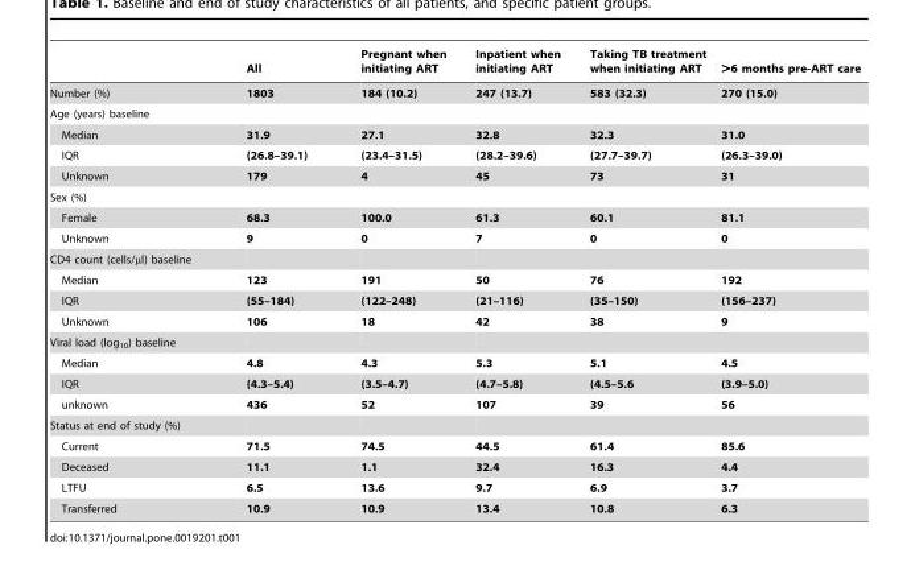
<table><thead><tr><td></td><td>All</td><td>Pregnant when initiating ART</td><td>Inpatient when initiating ART</td><td>Taking TB treatment when initiating ART</td><td>&gt;6 months pre-ART care</td></tr></thead><tbody><tr><td>Number (%)</td><td>1803</td><td>184 (10.2)</td><td>247 (13.7)</td><td>583 (32.3)</td><td>270 (15.0)</td></tr><tr><td colspan="6">Age (years) baseline</td></tr><tr><td>Median</td><td>31.9</td><td>27.1</td><td>32.8</td><td>32.3</td><td>31.0</td></tr><tr><td>IQR</td><td>(26.8–39.1)</td><td>(23.4–31.5)</td><td>(28.2–39.6)</td><td>(27.7–39.7)</td><td>(26.3–39.0)</td></tr><tr><td>Unknown</td><td>179</td><td>4</td><td>45</td><td>73</td><td>31</td></tr><tr><td colspan="6">Sex (%)</td></tr><tr><td>Female</td><td>68.3</td><td>100.0</td><td>61.3</td><td>60.1</td><td>81.1</td></tr><tr><td>Unknown</td><td>9</td><td>0</td><td>7</td><td>0</td><td>0</td></tr><tr><td colspan="6">CD4 count (cells/µl) baseline</td></tr><tr><td>Median</td><td>123</td><td>191</td><td>50</td><td>76</td><td>192</td></tr><tr><td>IQR</td><td>(55–184)</td><td>(122–248)</td><td>(21–116)</td><td>(35–150)</td><td>(156–237)</td></tr><tr><td>Unknown</td><td>106</td><td>18</td><td>42</td><td>38</td><td>9</td></tr><tr><td colspan="6">Viral load (log<sub>10</sub>) baseline</td></tr><tr><td>Median</td><td>4.8</td><td>4.3</td><td>5.3</td><td>5.1</td><td>4.5</td></tr><tr><td>IQR</td><td>(4.3–5.4)</td><td>(3.5–4.7)</td><td>(4.7–5.8)</td><td>(4.5–5.6</td><td>(3.9–5.0)</td></tr><tr><td>unknown</td><td>436</td><td>52</td><td>107</td><td>39</td><td>56</td></tr><tr><td colspan="6">Status at end of study (%)</td></tr><tr><td>Current</td><td>71.5</td><td>74.5</td><td>44.5</td><td>61.4</td><td>85.6</td></tr><tr><td>Deceased</td><td>11.1</td><td>1.1</td><td>32.4</td><td>16.3</td><td>4.4</td></tr><tr><td>LTFU</td><td>6.5</td><td>13.6</td><td>9.7</td><td>6.9</td><td>3.7</td></tr><tr><td>Transferred</td><td>10.9</td><td>10.9</td><td>13.4</td><td>10.8</td><td>6.3</td></tr></tbody></table>